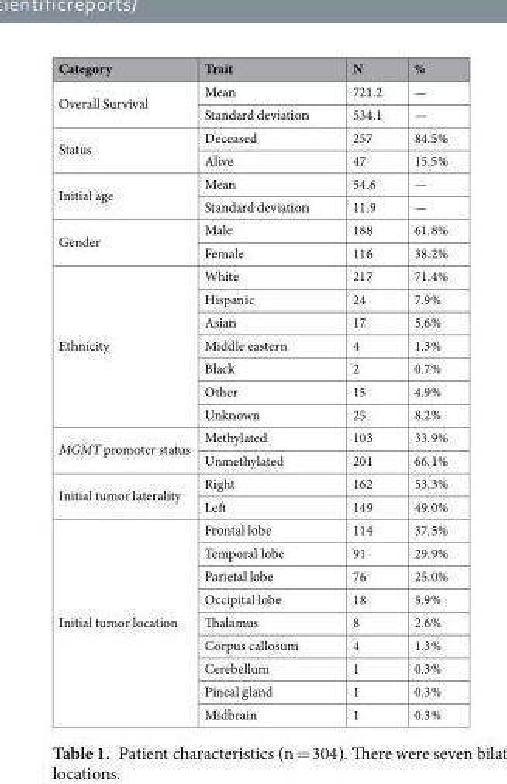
<table><thead><tr><td>Category</td><td>Trait</td><td>N</td><td>%</td></tr></thead><tbody><tr><td rowspan="2">Overall Survival</td><td>Mean</td><td>721.2</td><td>—</td></tr><tr><td>Standard deviation</td><td>534.1</td><td>—</td></tr><tr><td rowspan="2">Status</td><td>Deceased</td><td>257</td><td>84.5%</td></tr><tr><td>Alive</td><td>47</td><td>15.5%</td></tr><tr><td rowspan="2">Initial age</td><td>Mean</td><td>54.6</td><td>—</td></tr><tr><td>Standard deviation</td><td>11.9</td><td>—</td></tr><tr><td rowspan="2">Gender</td><td>Male</td><td>188</td><td>61.8%</td></tr><tr><td>Female</td><td>116</td><td>38.2%</td></tr><tr><td rowspan="7">Ethnicity</td><td>White</td><td>217</td><td>71.4%</td></tr><tr><td>Hispanic</td><td>24</td><td>7.9%</td></tr><tr><td>Asian</td><td>17</td><td>5.6%</td></tr><tr><td>Middle eastern</td><td>4</td><td>1.3%</td></tr><tr><td>Black</td><td>2</td><td>0.7%</td></tr><tr><td>Other</td><td>15</td><td>4.9%</td></tr><tr><td>Unknown</td><td>25</td><td>8.2%</td></tr><tr><td rowspan="2">MGMT promoter status</td><td>Methylated</td><td>103</td><td>33.9%</td></tr><tr><td>Unmethylated</td><td>201</td><td>66.1%</td></tr><tr><td rowspan="2">Initial tumor laterality</td><td>Right</td><td>162</td><td>53.3%</td></tr><tr><td>Left</td><td>149</td><td>49.0%</td></tr><tr><td rowspan="9">Initial tumor location</td><td>Frontal lobe</td><td>114</td><td>37.5%</td></tr><tr><td>Temporal lobe</td><td>91</td><td>29.9%</td></tr><tr><td>Parietal lobe</td><td>76</td><td>25.0%</td></tr><tr><td>Occipital lobe</td><td>18</td><td>5.9%</td></tr><tr><td>Thalamus</td><td>8</td><td>2.6%</td></tr><tr><td>Corpus callosum</td><td>4</td><td>1.3%</td></tr><tr><td>Cerebellum</td><td>1</td><td>0.3%</td></tr><tr><td>Pineal gland</td><td>1</td><td>0.3%</td></tr><tr><td>Midbrain</td><td>1</td><td>0.3%</td></tr></tbody></table>